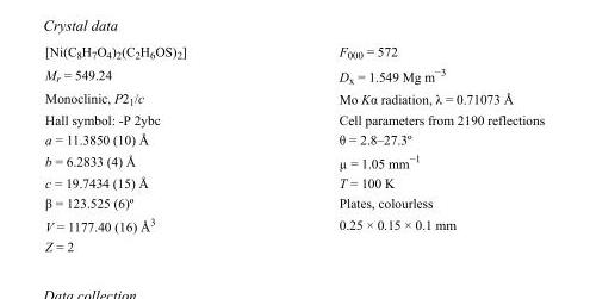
<table><tbody><tr><td>[Ni(C<sub>8</sub>H<sub>7</sub>O<sub>4</sub>)<sub>2</sub>(C<sub>2</sub>H<sub>6</sub>OS)<sub>2</sub>]</td><td>F000 = 572</td></tr><tr><td>M<sub>r</sub> = 549.24</td><td>D<sub>x</sub> = 1.549 Mg m<sup>−3</sup></td></tr><tr><td>Monoclinic, P2<sub>1</sub>/c</td><td>Mo Kα radiation, λ = 0.71073 Å</td></tr><tr><td>Hall symbol: -P 2ybc</td><td>Cell parameters from 2190 reflections</td></tr><tr><td>a = 11.3850 (10) Å</td><td>θ = 2.8–27.3º</td></tr><tr><td>b = 6.2833 (4) Å</td><td>µ = 1.05 mm<sup>−1</sup></td></tr><tr><td>c = 19.7434 (15) Å</td><td>T = 100 K</td></tr><tr><td>β = 123.525 (6)º</td><td>Plates, colourless</td></tr><tr><td>V = 1177.40 (16) Å<sup>3</sup></td><td>0.25 × 0.15 × 0.1 mm</td></tr><tr><td>Z = 2</td><td></td></tr></tbody></table>